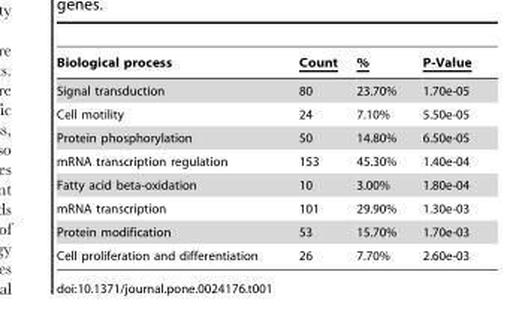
<table><thead><tr><td>Biological process</td><td>Count</td><td>%</td><td>P-Value</td></tr></thead><tbody><tr><td>Signal transduction</td><td>80</td><td>23.70%</td><td>1.70e-05</td></tr><tr><td>Cell motility</td><td>24</td><td>7.10%</td><td>5.50e-05</td></tr><tr><td>Protein phosphorylation</td><td>50</td><td>14.80%</td><td>6.50e-05</td></tr><tr><td>mRNA transcription regulation</td><td>153</td><td>45.30%</td><td>1.40e-04</td></tr><tr><td>Fatty acid beta-oxidation</td><td>10</td><td>3.00%</td><td>1.80e-04</td></tr><tr><td>mRNA transcription</td><td>101</td><td>29.90%</td><td>1.30e-03</td></tr><tr><td>Protein modification</td><td>53</td><td>15.70%</td><td>1.70e-03</td></tr><tr><td>Cell proliferation and differentiation</td><td>26</td><td>7.70%</td><td>2.60e-03</td></tr></tbody></table>